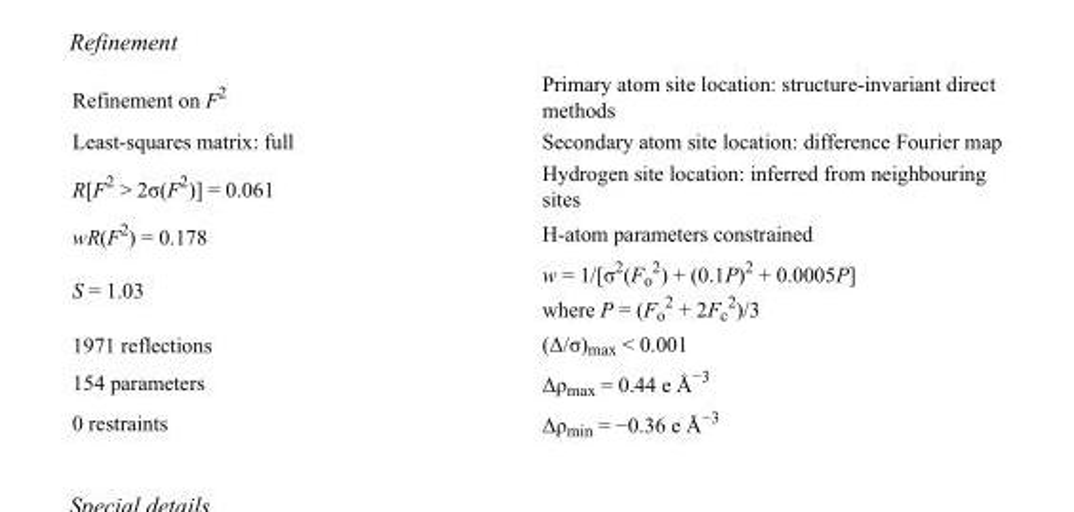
<table><tbody><tr><td>Refinement on F<sup>2</sup></td><td>Primary atom site location: structure-invariant direct methods</td></tr><tr><td>Least-squares matrix: full</td><td>Secondary atom site location: difference Fourier map</td></tr><tr><td>R[F<sup>2</sup> &gt; 2σ(F<sup>2</sup>)] = 0.061</td><td>Hydrogen site location: inferred from neighbouring sites</td></tr><tr><td>wR(F<sup>2</sup>) = 0.178</td><td>H-atom parameters constrained</td></tr><tr><td>S = 1.03</td><td>w = 1/[σ<sup>2</sup>(F<sub>o</sub> <sup>2</sup>) + (0.1P)<sup>2</sup> + 0.0005P] where P = (F<sub>o</sub> <sup>2</sup> + 2F<sub>c</sub> <sup>2</sup>)/3</td></tr><tr><td>1971 reflections</td><td>(Δ/σ)<sub>max</sub> &lt; 0.001</td></tr><tr><td>154 parameters</td><td>Δρ<sub>max</sub> = 0.44 e Å<sup>−3</sup></td></tr><tr><td>0 restraints</td><td>Δρ<sub>min</sub> = −0.36 e Å<sup>−3</sup></td></tr></tbody></table>